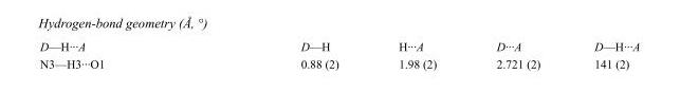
<table><tbody><tr><td>D—H···A</td><td>D—H</td><td>H···A</td><td>D···A</td><td>D—H···A</td></tr><tr><td>N3—H3···O1</td><td>0.88 (2)</td><td>1.98 (2)</td><td>2.721 (2)</td><td>141 (2)</td></tr></tbody></table>